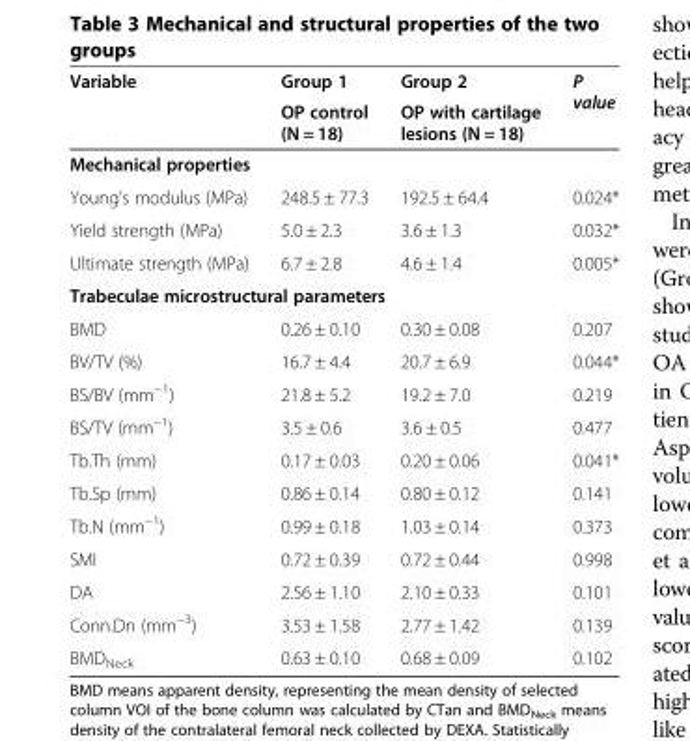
<table><thead><tr><td rowspan="2">Variable</td><td rowspan="2">Group 1 OP control (N = 18)</td><td rowspan="2">Group 2 OP with cartilage lesions (N = 18)</td><td rowspan="2">P value</td></tr><tr></tr></thead><tbody><tr><td colspan="4">Mechanical properties</td></tr><tr><td>Young’s modulus (MPa)</td><td>248.5 ± 77.3</td><td>192.5 ± 64.4</td><td>0.024*</td></tr><tr><td>Yield strength (MPa)</td><td>5.0 ± 2.3</td><td>3.6 ± 1.3</td><td>0.032*</td></tr><tr><td>Ultimate strength (MPa)</td><td>6.7 ± 2.8</td><td>4.6 ± 1.4</td><td>0.005*</td></tr><tr><td colspan="4">Trabeculae microstructural parameters</td></tr><tr><td>BMD</td><td>0.26 ± 0.10</td><td>0.30 ± 0.08</td><td>0.207</td></tr><tr><td>BV/TV (%)</td><td>16.7 ± 4.4</td><td>20.7 ± 6.9</td><td>0.044*</td></tr><tr><td>BS/BV (mm<sup>−1</sup>)</td><td>21.8 ± 5.2</td><td>19.2 ± 7.0</td><td>0.219</td></tr><tr><td>BS/TV (mm<sup>−1</sup>)</td><td>3.5 ± 0.6</td><td>3.6 ± 0.5</td><td>0.477</td></tr><tr><td>Tb.Th (mm)</td><td>0.17 ± 0.03</td><td>0.20 ± 0.06</td><td>0.041*</td></tr><tr><td>Tb.Sp (mm)</td><td>0.86 ± 0.14</td><td>0.80 ± 0.12</td><td>0.141</td></tr><tr><td>Tb.N (mm<sup>−1</sup>)</td><td>0.99 ± 0.18</td><td>1.03 ± 0.14</td><td>0.373</td></tr><tr><td>SMI</td><td>0.72 ± 0.39</td><td>0.72 ± 0.44</td><td>0.998</td></tr><tr><td>DA</td><td>2.56 ± 1.10</td><td>2.10 ± 0.33</td><td>0.101</td></tr><tr><td>Conn.Dn (mm<sup>−3</sup>)</td><td>3.53 ± 1.58</td><td>2.77 ± 1.42</td><td>0.139</td></tr><tr><td>BMD<sub>Neck</sub></td><td>0.63 ± 0.10</td><td>0.68 ± 0.09</td><td>0.102</td></tr></tbody></table>